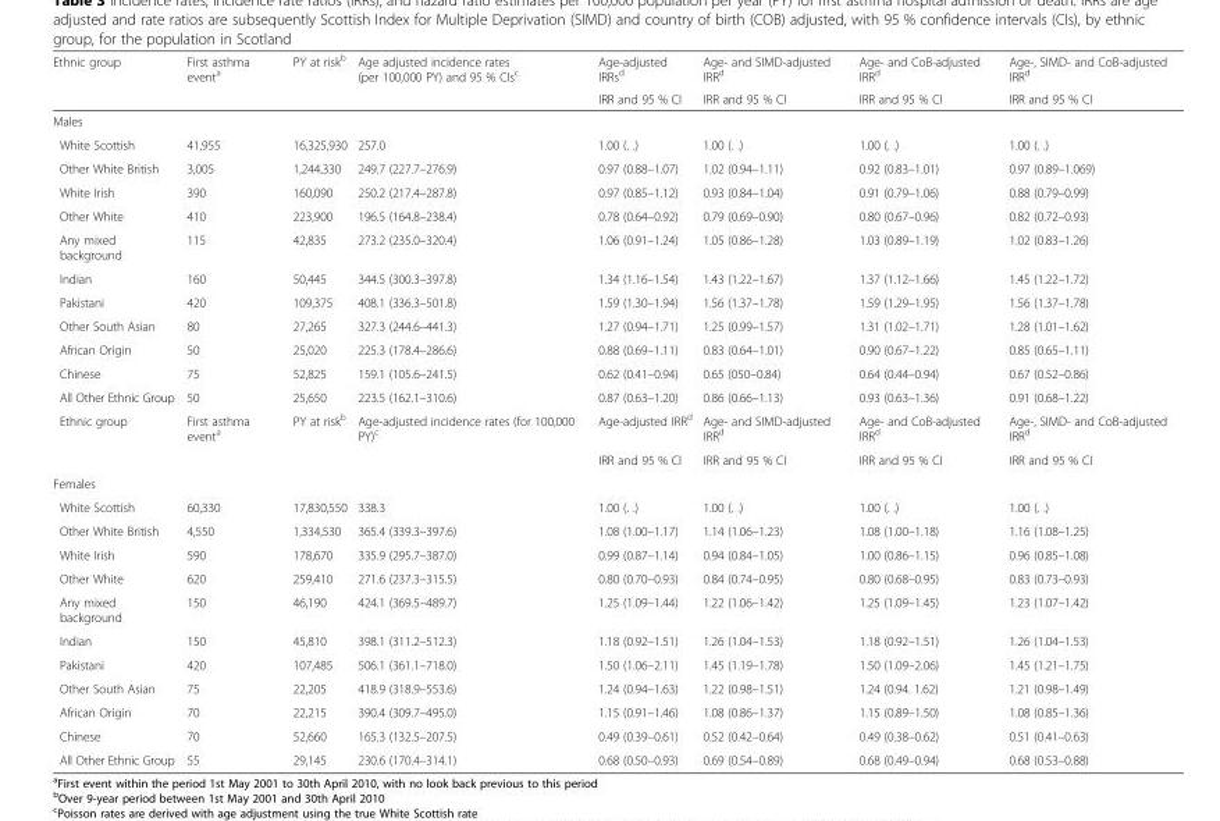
<table><thead><tr><td rowspan="2">Ethnic group</td><td rowspan="2">First asthma event<sup>a</sup></td><td rowspan="2">PY at risk<sup>b</sup></td><td rowspan="2">Age adjusted incidence rates (per 100,000 PY) and 95 % CIs<sup>c</sup></td><td rowspan="2">Age-adjusted IRRs<sup>d</sup> IRR and 95 % CI</td><td rowspan="2">Age- and SIMD-adjusted IRR<sup>d</sup> IRR and 95 % CI</td><td rowspan="2">Age- and CoB-adjusted IRR<sup>d</sup> IRR and 95 % CI</td><td rowspan="2">Age-, SIMD- and CoB-adjusted IRR<sup>d</sup> IRR and 95 % CI</td></tr><tr></tr></thead><tbody><tr><td colspan="8">Males</td></tr><tr><td>White Scottish</td><td>41,955</td><td>16,325,930</td><td>257.0</td><td>1.00 (. .)</td><td>1.00 (. .)</td><td>1.00 (. .)</td><td>1.00 (. .)</td></tr><tr><td>Other White British</td><td>3,005</td><td>1,244,330</td><td>249.7 (227.7–276.9)</td><td>0.97 (0.88–1.07)</td><td>1.02 (0.94–1.11)</td><td>0.92 (0.83–1.01)</td><td>0.97 (0.89–1.069)</td></tr><tr><td>White Irish</td><td>390</td><td>160,090</td><td>250.2 (217.4–287.8)</td><td>0.97 (0.85–1.12)</td><td>0.93 (0.84–1.04)</td><td>0.91 (0.79–1.06)</td><td>0.88 (0.79–0.99)</td></tr><tr><td>Other White</td><td>410</td><td>223,900</td><td>196.5 (164.8–238.4)</td><td>0.78 (0.64–0.92)</td><td>0.79 (0.69–0.90)</td><td>0.80 (0.67–0.96)</td><td>0.82 (0.72–0.93)</td></tr><tr><td>Any mixed background</td><td>115</td><td>42,835</td><td>273.2 (235.0–320.4)</td><td>1.06 (0.91–1.24)</td><td>1.05 (0.86–1.28)</td><td>1.03 (0.89–1.19)</td><td>1.02 (0.83–1.26)</td></tr><tr><td>Indian</td><td>160</td><td>50,445</td><td>344.5 (300.3–397.8)</td><td>1.34 (1.16–1.54)</td><td>1.43 (1.22–1.67)</td><td>1.37 (1.12–1.66)</td><td>1.45 (1.22–1.72)</td></tr><tr><td>Pakistani</td><td>420</td><td>109,375</td><td>408.1 (336.3–501.8)</td><td>1.59 (1.30–1.94)</td><td>1.56 (1.37–1.78)</td><td>1.59 (1.29–1.95)</td><td>1.56 (1.37–1.78)</td></tr><tr><td>Other South Asian</td><td>80</td><td>27,265</td><td>327.3 (244.6–441.3)</td><td>1.27 (0.94–1.71)</td><td>1.25 (0.99–1.57)</td><td>1.31 (1.02–1.71)</td><td>1.28 (1.01–1.62)</td></tr><tr><td>African Origin</td><td>50</td><td>25,020</td><td>225.3 (178.4–286.6)</td><td>0.88 (0.69–1.11)</td><td>0.83 (0.64–1.01)</td><td>0.90 (0.67–1.22)</td><td>0.85 (0.65–1.11)</td></tr><tr><td>Chinese</td><td>75</td><td>52,825</td><td>159.1 (105.6–241.5)</td><td>0.62 (0.41–0.94)</td><td>0.65 (050–0.84)</td><td>0.64 (0.44–0.94)</td><td>0.67 (0.52–0.86)</td></tr><tr><td>All Other Ethnic Group</td><td>50</td><td>25,650</td><td>223.5 (162.1–310.6)</td><td>0.87 (0.63–1.20)</td><td>0.86 (0.66–1.13)</td><td>0.93 (0.63–1.36)</td><td>0.91 (0.68–1.22)</td></tr><tr><td rowspan="2">Ethnic group</td><td>First asthma event<sup>a</sup></td><td>PY at risk<sup>b</sup></td><td>Age-adjusted incidence rates (for 100,000 PY)<sup>c</sup></td><td>Age-adjusted IRR<sup>d</sup></td><td>Age- and SIMD-adjusted IRR<sup>d</sup></td><td>Age- and CoB-adjusted IRR<sup>d</sup></td><td>Age-, SIMD- and CoB-adjusted IRR<sup>d</sup></td></tr><tr><td></td><td></td><td></td><td>IRR and 95 % CI</td><td>IRR and 95 % CI</td><td>IRR and 95 % CI</td><td>IRR and 95 % CI</td></tr><tr><td colspan="8">Females</td></tr><tr><td>White Scottish</td><td>60,330</td><td>17,830,550</td><td>338.3</td><td>1.00 (. .)</td><td>1.00 (. .)</td><td>1.00 (. .)</td><td>1.00 (. .)</td></tr><tr><td>Other White British</td><td>4,550</td><td>1,334,530</td><td>365.4 (339.3–397.6)</td><td>1.08 (1.00–1.17)</td><td>1.14 (1.06–1.23)</td><td>1.08 (1.00–1.18)</td><td>1.16 (1.08–1.25)</td></tr><tr><td>White Irish</td><td>590</td><td>178,670</td><td>335.9 (295.7–387.0)</td><td>0.99 (0.87–1.14)</td><td>0.94 (0.84–1.05)</td><td>1.00 (0.86–1.15)</td><td>0.96 (0.85–1.08)</td></tr><tr><td>Other White</td><td>620</td><td>259,410</td><td>271.6 (237.3–315.5)</td><td>0.80 (0.70–0.93)</td><td>0.84 (0.74–0.95)</td><td>0.80 (0.68–0.95)</td><td>0.83 (0.73–0.93)</td></tr><tr><td>Any mixed background</td><td>150</td><td>46,190</td><td>424.1 (369.5–489.7)</td><td>1.25 (1.09–1.44)</td><td>1.22 (1.06–1.42)</td><td>1.25 (1.09–1.45)</td><td>1.23 (1.07–1.42)</td></tr><tr><td>Indian</td><td>150</td><td>45,810</td><td>398.1 (311.2–512.3)</td><td>1.18 (0.92–1.51)</td><td>1.26 (1.04–1.53)</td><td>1.18 (0.92–1.51)</td><td>1.26 (1.04–1.53)</td></tr><tr><td>Pakistani</td><td>420</td><td>107,485</td><td>506.1 (361.1–718.0)</td><td>1.50 (1.06–2.11)</td><td>1.45 (1.19–1.78)</td><td>1.50 (1.09–2.06)</td><td>1.45 (1.21–1.75)</td></tr><tr><td>Other South Asian</td><td>75</td><td>22,205</td><td>418.9 (318.9–553.6)</td><td>1.24 (0.94–1.63)</td><td>1.22 (0.98–1.51)</td><td>1.24 (0.94. 1.62)</td><td>1.21 (0.98–1.49)</td></tr><tr><td>African Origin</td><td>70</td><td>22,215</td><td>390.4 (309.7–495.0)</td><td>1.15 (0.91–1.46)</td><td>1.08 (0.86–1.37)</td><td>1.15 (0.89–1.50)</td><td>1.08 (0.85–1.36)</td></tr><tr><td>Chinese</td><td>70</td><td>52,660</td><td>165.3 (132.5–207.5)</td><td>0.49 (0.39–0.61)</td><td>0.52 (0.42–0.64)</td><td>0.49 (0.38–0.62)</td><td>0.51 (0.41–0.63)</td></tr><tr><td>All Other Ethnic Group</td><td>55</td><td>29,145</td><td>230.6 (170.4–314.1)</td><td>0.68 (0.50–0.93)</td><td>0.69 (0.54–0.89)</td><td>0.68 (0.49–0.94)</td><td>0.68 (0.53–0.88)</td></tr></tbody></table>